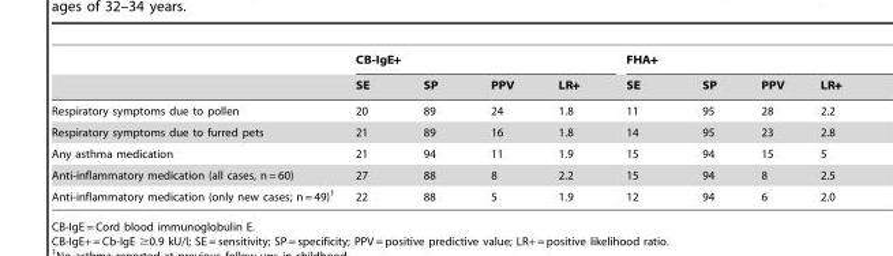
<table><thead><tr><td rowspan="2"></td><td colspan="4">CB-IgE+</td><td colspan="4">FHA+</td></tr><tr><td>SE</td><td>SP</td><td>PPV</td><td>LR+</td><td>SE</td><td>SP</td><td>PPV</td><td>LR+</td></tr></thead><tbody><tr><td>Respiratory symptoms due to pollen</td><td>20</td><td>89</td><td>24</td><td>1.8</td><td>11</td><td>95</td><td>28</td><td>2.2</td></tr><tr><td>Respiratory symptoms due to furred pets</td><td>21</td><td>89</td><td>16</td><td>1.8</td><td>14</td><td>95</td><td>23</td><td>2.8</td></tr><tr><td>Any asthma medication</td><td>21</td><td>94</td><td>11</td><td>1.9</td><td>15</td><td>94</td><td>15</td><td>5</td></tr><tr><td>Anti-inflammatory medication (all cases, n = 60)</td><td>27</td><td>88</td><td>8</td><td>2.2</td><td>15</td><td>94</td><td>8</td><td>2.5</td></tr><tr><td>Anti-inflammatory medication (only new cases; n = 49)<sup>1</sup></td><td>22</td><td>88</td><td>5</td><td>1.9</td><td>12</td><td>94</td><td>6</td><td>2.0</td></tr></tbody></table>